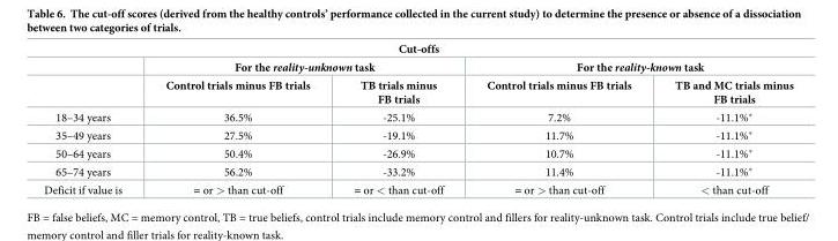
<table><thead><tr><td colspan="5">Cut-offs</td></tr><tr><td rowspan="2"></td><td colspan="2">For the reality-unknown task</td><td colspan="2">For the reality-known task</td></tr><tr><td>Control trials minus FB trials</td><td>TB trials minus FB trials</td><td>Control trials minus FB trials</td><td>TB and MC trials minus FB trials</td></tr></thead><tbody><tr><td>18–34 years</td><td>36.5%</td><td>-25.1%</td><td>7.2%</td><td>-11.1%*</td></tr><tr><td>35–49 years</td><td>27.5%</td><td>-19.1%</td><td>11.7%</td><td>-11.1%*</td></tr><tr><td>50–64 years</td><td>50.4%</td><td>-26.9%</td><td>10.7%</td><td>-11.1%*</td></tr><tr><td>65–74 years</td><td>56.2%</td><td>-33.2%</td><td>11.4%</td><td>-11.1%*</td></tr><tr><td>Deficit if value is</td><td>= or &gt; than cut-off</td><td>= or &lt; than cut-off</td><td>= or &gt; than cut-off</td><td>&lt; than cut-off</td></tr></tbody></table>